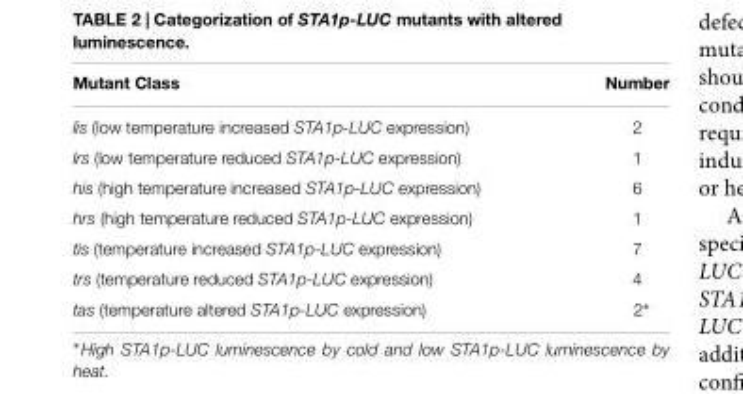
<table><thead><tr><td>Mutant Class</td><td>Number</td></tr></thead><tbody><tr><td>lis (low temperature increased STA1p-LUC expression)</td><td>2</td></tr><tr><td>lrs (low temperature reduced STA1p-LUC expression)</td><td>1</td></tr><tr><td>his (high temperature increased STA1p-LUC expression)</td><td>6</td></tr><tr><td>hrs (high temperature reduced STA1p-LUC expression)</td><td>1</td></tr><tr><td>tis (temperature increased STA1p-LUC expression)</td><td>7</td></tr><tr><td>trs (temperature reduced STA1p-LUC expression)</td><td>4</td></tr><tr><td>tas (temperature altered STA1p-LUC expression)</td><td>2∗</td></tr></tbody></table>